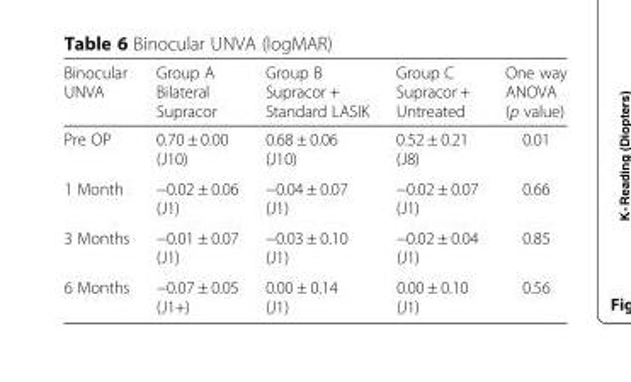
<table><thead><tr><td>Binocular UNVA</td><td>Group A Bilateral Supracor</td><td>Group B Supracor + Standard LASIK</td><td>Group C Supracor + Untreated</td><td>One way ANOVA (p value)</td></tr></thead><tbody><tr><td>Pre OP</td><td>0.70 ± 0.00 (J10)</td><td>0.68 ± 0.06 (J10)</td><td>0.52 ± 0.21 (J8)</td><td>0.01</td></tr><tr><td>1 Month</td><td>−0.02 ± 0.06 (J1)</td><td>−0.04 ± 0.07 (J1)</td><td>−0.02 ± 0.07 (J1)</td><td>0.66</td></tr><tr><td>3 Months</td><td>−0.01 ± 0.07 (J1)</td><td>−0.03 ± 0.10 (J1)</td><td>−0.02 ± 0.04 (J1)</td><td>0.85</td></tr><tr><td>6 Months</td><td>−0.07 ± 0.05 (J1+)</td><td>0.00 ± 0.14 (J1)</td><td>0.00 ± 0.10 (J1)</td><td>0.56</td></tr></tbody></table>